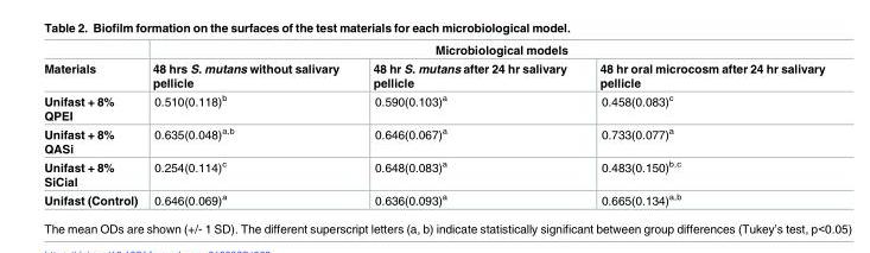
<table><thead><tr><td rowspan="2">Materials</td><td colspan="3">Microbiological models</td></tr><tr><td>48 hrs S. mutans without salivary pellicle</td><td>48 hr S. mutans after 24 hr salivary pellicle</td><td>48 hr oral microcosm after 24 hr salivary pellicle</td></tr></thead><tbody><tr><td>Unifast + 8% QPEI</td><td>0.510(0.118)<sup>b</sup></td><td>0.590(0.103)<sup>a</sup></td><td>0.458(0.083)<sup>c</sup></td></tr><tr><td>Unifast + 8% QASi</td><td>0.635(0.048)<sup>a,b</sup></td><td>0.646(0.067)<sup>a</sup></td><td>0.733(0.077)<sup>a</sup></td></tr><tr><td>Unifast + 8% SiCial</td><td>0.254(0.114)<sup>c</sup></td><td>0.648(0.083)<sup>a</sup></td><td>0.483(0.150)<sup>b,c</sup></td></tr><tr><td>Unifast (Control)</td><td>0.646(0.069)<sup>a</sup></td><td>0.636(0.093)<sup>a</sup></td><td>0.665(0.134)<sup>a,b</sup></td></tr></tbody></table>